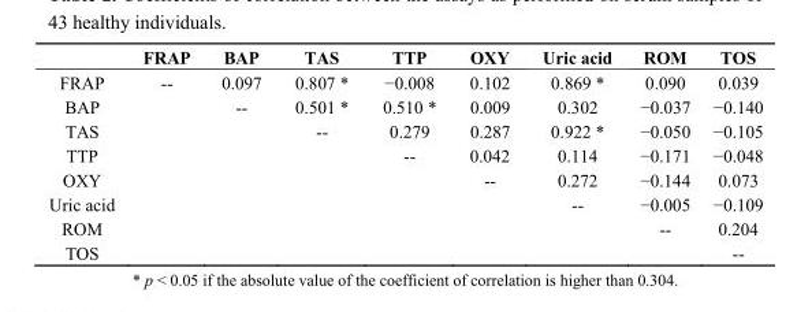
<table><thead><tr><td></td><td>FRAP</td><td>BAP</td><td>TAS</td><td>TTP</td><td>OXY</td><td>Uric acid</td><td>ROM</td><td>TOS</td></tr></thead><tbody><tr><td>FRAP</td><td>--</td><td>0.097</td><td>0.807 *</td><td>−0.008</td><td>0.102</td><td>0.869 *</td><td>0.090</td><td>0.039</td></tr><tr><td>BAP</td><td></td><td>--</td><td>0.501 *</td><td>0.510 *</td><td>0.009</td><td>0.302</td><td>−0.037</td><td>−0.140</td></tr><tr><td>TAS</td><td></td><td></td><td>--</td><td>0.279</td><td>0.287</td><td>0.922 *</td><td>−0.050</td><td>−0.105</td></tr><tr><td>TTP</td><td></td><td></td><td></td><td>--</td><td>0.042</td><td>0.114</td><td>−0.171</td><td>−0.048</td></tr><tr><td>OXY</td><td></td><td></td><td></td><td></td><td>--</td><td>0.272</td><td>−0.144</td><td>0.073</td></tr><tr><td>Uric acid</td><td></td><td></td><td></td><td></td><td></td><td>--</td><td>−0.005</td><td>−0.109</td></tr><tr><td>ROM</td><td></td><td></td><td></td><td></td><td></td><td></td><td>--</td><td>0.204</td></tr><tr><td>TOS</td><td></td><td></td><td></td><td></td><td></td><td></td><td></td><td>--</td></tr></tbody></table>